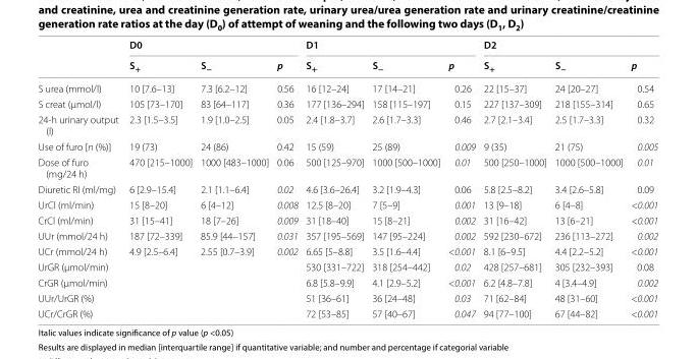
<table><thead><tr><td rowspan="2"></td><td colspan="3">D0</td><td colspan="3">D1</td><td colspan="3">D2</td></tr><tr><td>S<sub>+</sub></td><td>S<sub>−</sub></td><td>p</td><td>S<sub>+</sub></td><td>S<sub>−</sub></td><td>p</td><td>S<sub>+</sub></td><td>S<sub>−</sub></td><td>p</td></tr></thead><tbody><tr><td>S urea (mmol/l)</td><td>10 [7.6–13]</td><td>7.3 [6.2–12]</td><td>0.56</td><td>16 [12–24]</td><td>17 [14–21]</td><td>0.26</td><td>22 [15–37]</td><td>24 [20–27]</td><td>0.54</td></tr><tr><td>S creat (µmol/l)</td><td>105 [73–170]</td><td>83 [64–117]</td><td>0.36</td><td>177 [136–294]</td><td>158 [115–197]</td><td>0.15</td><td>227 [137–309]</td><td>218 [155–314]</td><td>0.65</td></tr><tr><td>24-h urinary output (l)</td><td>2.3 [1.5–3.5]</td><td>1.9 [1.0–2.5]</td><td>0.05</td><td>2.4 [1.8–3.7]</td><td>2.6 [1.7–3.3]</td><td>0.46</td><td>2.7 [2.1–3.4]</td><td>2.5 [1.7–3.3]</td><td>0.32</td></tr><tr><td>Use of furo [n (%)]</td><td>19 (73)</td><td>24 (86)</td><td>0.42</td><td>15 (59)</td><td>25 (89)</td><td>0.009</td><td>9 (35)</td><td>21 (75)</td><td>0.005</td></tr><tr><td>Dose of furo (mg/24 h)</td><td>470 [215–1000]</td><td>1000 [483–1000]</td><td>0.06</td><td>500 [125–970]</td><td>1000 [500–1000]</td><td>0.01</td><td>500 [250–1000]</td><td>1000 [500–1000]</td><td>0.01</td></tr><tr><td>Diuretic RI (ml/mg)</td><td>6 [2.9–15.4]</td><td>2.1 [1.1–6.4]</td><td>0.02</td><td>4.6 [3.6–26.4]</td><td>3.2 [1.9–4.3]</td><td>0.06</td><td>5.8 [2.5–8.2]</td><td>3.4 [2.6–5.8]</td><td>0.09</td></tr><tr><td>UrCl (ml/min)</td><td>15 [8–20]</td><td>6 [4–12]</td><td>0.008</td><td>12.5 [8–20]</td><td>7 [5–9]</td><td>0.001</td><td>13 [9–18]</td><td>6 [4–8]</td><td>&lt;0.001</td></tr><tr><td>CrCl (ml/min)</td><td>31 [15–41]</td><td>18 [7–26]</td><td>0.009</td><td>31 [18–40]</td><td>15 [8–21]</td><td>0.002</td><td>31 [16–42]</td><td>13 [6–21]</td><td>&lt;0.001</td></tr><tr><td>UUr (mmol/24 h)</td><td>187 [72–339]</td><td>85.9 [44–157]</td><td>0.031</td><td>357 [195–569]</td><td>147 [95–224]</td><td>0.002</td><td>592 [230–672]</td><td>236 [113–272]</td><td>0.002</td></tr><tr><td>UCr (mmol/24 h)</td><td>4.9 [2.5–6.4]</td><td>2.55 [0.7–3.9]</td><td>0.002</td><td>6.65 [5–8.8]</td><td>3.5 [1.6–4.4]</td><td>&lt;0.001</td><td>8.1 [6–9.5]</td><td>4.4 [2.2–5.2]</td><td>&lt;0.001</td></tr><tr><td>UrGR (µmol/min)</td><td></td><td></td><td></td><td>530 [331–722]</td><td>318 [254–442]</td><td>0.02</td><td>428 [257–681]</td><td>305 [232–393]</td><td>0.08</td></tr><tr><td>CrGR (µmol/min)</td><td></td><td></td><td></td><td>6.8 [5.8–9.9]</td><td>4.1 [2.9–5.2]</td><td>&lt;0.001</td><td>6.2 [4.8–7.8]</td><td>4 [3.4–4.9]</td><td>0.002</td></tr><tr><td>UUr/UrGR (%)</td><td></td><td></td><td></td><td>51 [36–61]</td><td>36 [24–48]</td><td>0.03</td><td>71 [62–84]</td><td>48 [31–60]</td><td>&lt;0.001</td></tr><tr><td>UCr/CrGR (%)</td><td></td><td></td><td></td><td>72 [53–85]</td><td>57 [40–67]</td><td>0.047</td><td>94 [77–100]</td><td>67 [44–82]</td><td>&lt;0.001</td></tr></tbody></table>